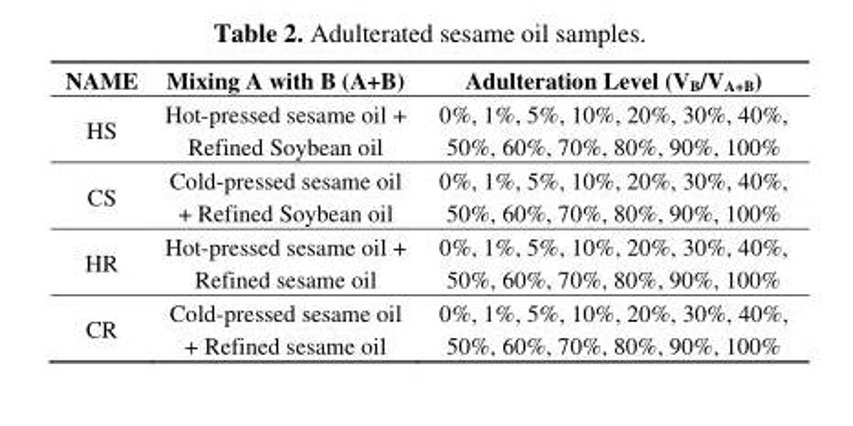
<table><thead><tr><td>NAME</td><td>Mixing A with B (A+B)</td><td>Adulteration Level (V<sub>B</sub>/V<sub>A+B</sub>)</td></tr></thead><tbody><tr><td>HS</td><td>Hot-pressed sesame oil + Refined Soybean oil</td><td>0%, 1%, 5%, 10%, 20%, 30%, 40%, 50%, 60%, 70%, 80%, 90%, 100%</td></tr><tr><td>CS</td><td>Cold-pressed sesame oil + Refined Soybean oil</td><td>0%, 1%, 5%, 10%, 20%, 30%, 40%, 50%, 60%, 70%, 80%, 90%, 100%</td></tr><tr><td>HR</td><td>Hot-pressed sesame oil + Refined sesame oil</td><td>0%, 1%, 5%, 10%, 20%, 30%, 40%, 50%, 60%, 70%, 80%, 90%, 100%</td></tr><tr><td>CR</td><td>Cold-pressed sesame oil + Refined sesame oil</td><td>0%, 1%, 5%, 10%, 20%, 30%, 40%, 50%, 60%, 70%, 80%, 90%, 100%</td></tr></tbody></table>